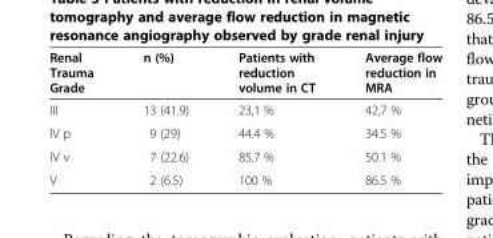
<table><thead><tr><td>Renal Trauma Grade</td><td>n (%)</td><td>Patients with reduction volume in CT</td><td>Average flow reduction in MRA</td></tr></thead><tbody><tr><td>III</td><td>13 (41.9)</td><td>23,1 %</td><td>42,7 %</td></tr><tr><td>IV p</td><td>9 (29)</td><td>44.4 %</td><td>34.5 %</td></tr><tr><td>IV v</td><td>7 (22.6)</td><td>85.7 %</td><td>50.1 %</td></tr><tr><td>V</td><td>2 (6.5)</td><td>100 %</td><td>86.5 %</td></tr></tbody></table>